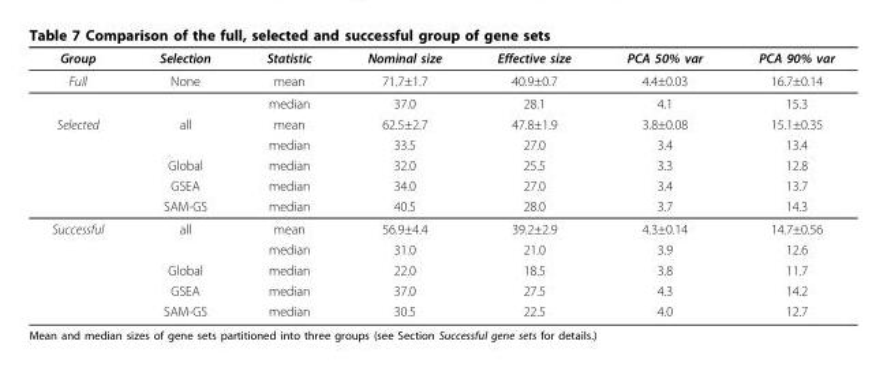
<table><thead><tr><td>Group</td><td>Selection</td><td>Statistic</td><td>Nominal size</td><td>Effective size</td><td>PCA 50% var</td><td>PCA 90% var</td></tr></thead><tbody><tr><td rowspan="2">Full</td><td>None</td><td>mean</td><td>71.7±1.7</td><td>40.9±0.7</td><td>4.4±0.03</td><td>16.7±0.14</td></tr><tr><td></td><td>median</td><td>37.0</td><td>28.1</td><td>4.1</td><td>15.3</td></tr><tr><td rowspan="5">Selected</td><td>all</td><td>mean</td><td>62.5±2.7</td><td>47.8±1.9</td><td>3.8±0.08</td><td>15.1±0.35</td></tr><tr><td></td><td>median</td><td>33.5</td><td>27.0</td><td>3.4</td><td>13.4</td></tr><tr><td>Global</td><td>median</td><td>32.0</td><td>25.5</td><td>3.3</td><td>12.8</td></tr><tr><td>GSEA</td><td>median</td><td>34.0</td><td>27.0</td><td>3.4</td><td>13.7</td></tr><tr><td>SAM-GS</td><td>median</td><td>40.5</td><td>28.0</td><td>3.7</td><td>14.3</td></tr><tr><td rowspan="5">Successful</td><td>all</td><td>mean</td><td>56.9±4.4</td><td>39.2±2.9</td><td>4.3±0.14</td><td>14.7±0.56</td></tr><tr><td></td><td>median</td><td>31.0</td><td>21.0</td><td>3.9</td><td>12.6</td></tr><tr><td>Global</td><td>median</td><td>22.0</td><td>18.5</td><td>3.8</td><td>11.7</td></tr><tr><td>GSEA</td><td>median</td><td>37.0</td><td>27.5</td><td>4.3</td><td>14.2</td></tr><tr><td>SAM-GS</td><td>median</td><td>30.5</td><td>22.5</td><td>4.0</td><td>12.7</td></tr></tbody></table>